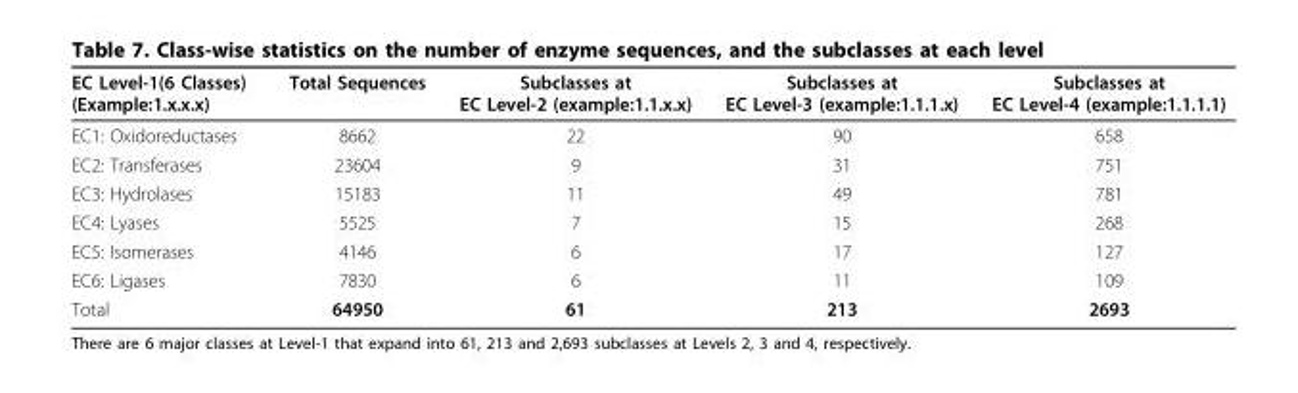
<table><thead><tr><td>EC Level-1(6 Classes) (Example:1.x.x.x)</td><td>Total Sequences</td><td>Subclasses at EC Level-2 (example:1.1.x.x)</td><td>Subclasses at EC Level-3 (example:1.1.1.x)</td><td>Subclasses at EC Level-4 (example:1.1.1.1)</td></tr></thead><tbody><tr><td>EC1: Oxidoreductases</td><td>8662</td><td>22</td><td>90</td><td>658</td></tr><tr><td>EC2: Transferases</td><td>23604</td><td>9</td><td>31</td><td>751</td></tr><tr><td>EC3: Hydrolases</td><td>15183</td><td>11</td><td>49</td><td>781</td></tr><tr><td>EC4: Lyases</td><td>5525</td><td>7</td><td>15</td><td>268</td></tr><tr><td>EC5: Isomerases</td><td>4146</td><td>6</td><td>17</td><td>127</td></tr><tr><td>EC6: Ligases</td><td>7830</td><td>6</td><td>11</td><td>109</td></tr><tr><td>Total</td><td>64950</td><td>61</td><td>213</td><td>2693</td></tr></tbody></table>